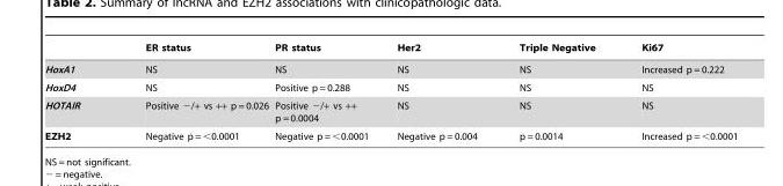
<table><thead><tr><td></td><td>ER status</td><td>PR status</td><td>Her2</td><td>Triple Negative</td><td>Ki67</td></tr></thead><tbody><tr><td>HoxA1</td><td>NS</td><td>NS</td><td>NS</td><td>NS</td><td>Increased p = 0.222</td></tr><tr><td>HoxD4</td><td>NS</td><td>Positive p = 0.288</td><td>NS</td><td>NS</td><td>NS</td></tr><tr><td>HOTAIR</td><td>Positive −/+ vs ++ p = 0.026</td><td>Positive −/+ vs ++ p = 0.0004</td><td>NS</td><td>NS</td><td>NS</td></tr><tr><td>EZH2</td><td>Negative p = &lt;0.0001</td><td>Negative p = &lt;0.0001</td><td>Negative p = 0.004</td><td>p = 0.0014</td><td>Increased p = &lt;0.0001</td></tr></tbody></table>